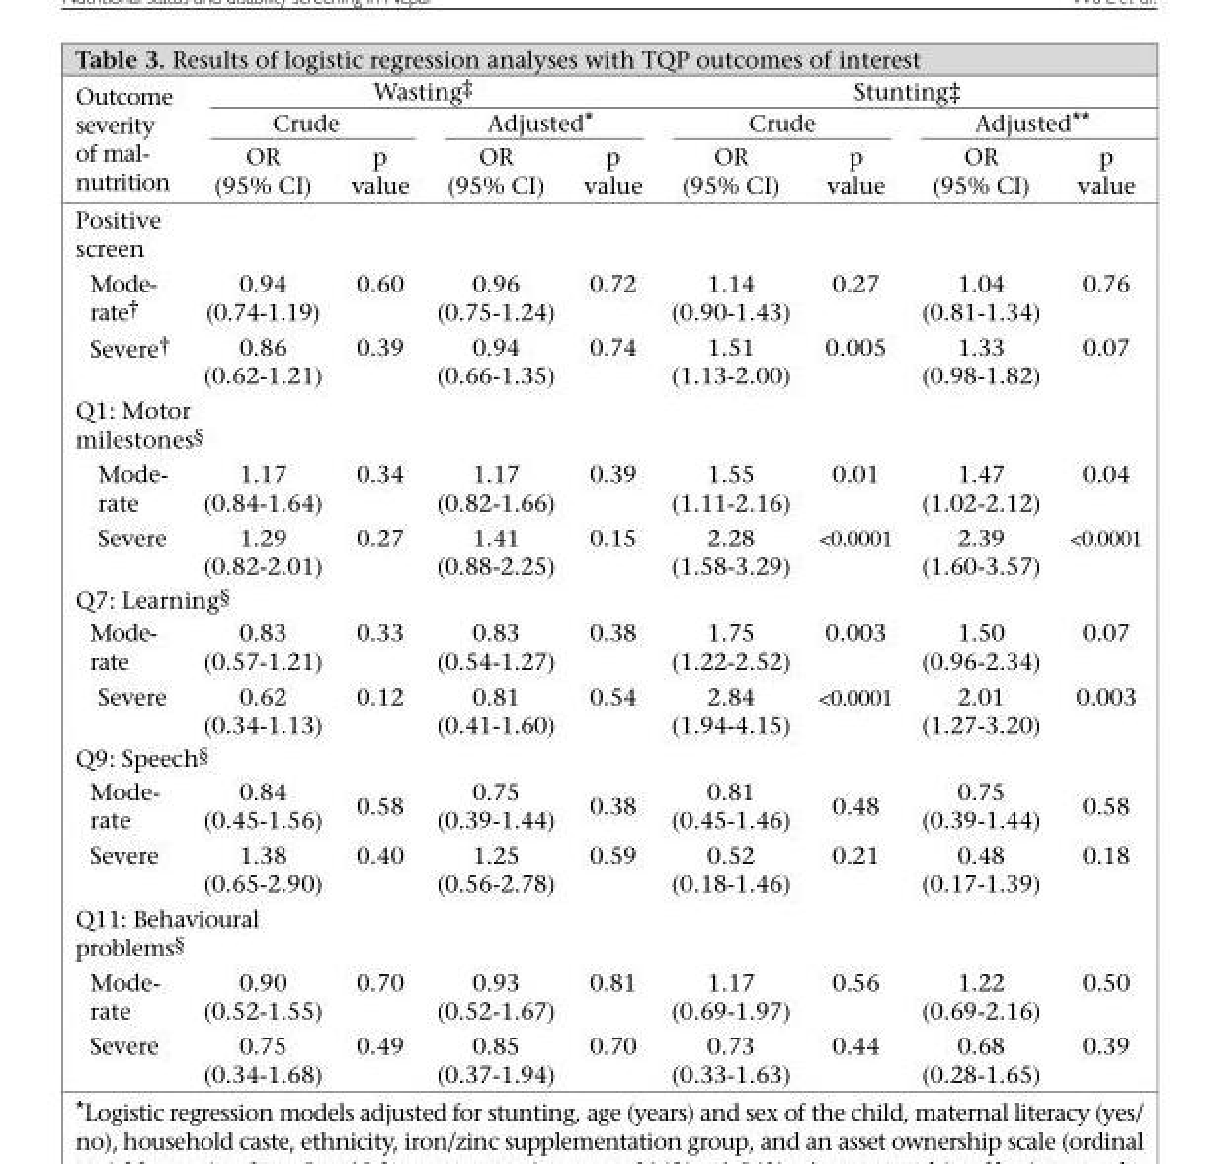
<table><thead><tr><td rowspan="3">Outcome severity of mal- nutrition</td><td colspan="4">Wasting‡</td><td colspan="4">Stunting‡</td></tr><tr><td colspan="2">Crude</td><td colspan="2">Adjusted*</td><td colspan="2">Crude</td><td colspan="2">Adjusted**</td></tr><tr><td>OR (95% CI)</td><td>p value</td><td>OR (95% CI)</td><td>p value</td><td>OR (95% CI)</td><td>p value</td><td>OR (95% CI)</td><td>p value</td></tr></thead><tbody><tr><td colspan="9">Positive screen</td></tr><tr><td>Mode- rate†</td><td>0.94 (0.74-1.19)</td><td>0.60</td><td>0.96 (0.75-1.24)</td><td>0.72</td><td>1.14 (0.90-1.43)</td><td>0.27</td><td>1.04 (0.81-1.34)</td><td>0.76</td></tr><tr><td>Severe†</td><td>0.86 (0.62-1.21)</td><td>0.39</td><td>0.94 (0.66-1.35)</td><td>0.74</td><td>1.51 (1.13-2.00)</td><td>0.005</td><td>1.33 (0.98-1.82)</td><td>0.07</td></tr><tr><td colspan="9">Q1: Motor milestones§</td></tr><tr><td>Mode- rate</td><td>1.17 (0.84-1.64)</td><td>0.34</td><td>1.17 (0.82-1.66)</td><td>0.39</td><td>1.55 (1.11-2.16)</td><td>0.01</td><td>1.47 (1.02-2.12)</td><td>0.04</td></tr><tr><td>Severe</td><td>1.29 (0.82-2.01)</td><td>0.27</td><td>1.41 (0.88-2.25)</td><td>0.15</td><td>2.28 (1.58-3.29)</td><td>&lt;0.0001</td><td>2.39 (1.60-3.57)</td><td>&lt;0.0001</td></tr><tr><td colspan="9">Q7: Learning§</td></tr><tr><td>Mode- rate</td><td>0.83 (0.57-1.21)</td><td>0.33</td><td>0.83 (0.54-1.27)</td><td>0.38</td><td>1.75 (1.22-2.52)</td><td>0.003</td><td>1.50 (0.96-2.34)</td><td>0.07</td></tr><tr><td>Severe</td><td>0.62 (0.34-1.13)</td><td>0.12</td><td>0.81 (0.41-1.60)</td><td>0.54</td><td>2.84 (1.94-4.15)</td><td>&lt;0.0001</td><td>2.01 (1.27-3.20)</td><td>0.003</td></tr><tr><td colspan="9">Q9: Speech§</td></tr><tr><td>Mode- rate</td><td>0.84 (0.45-1.56)</td><td>0.58</td><td>0.75 (0.39-1.44)</td><td>0.38</td><td>0.81 (0.45-1.46)</td><td>0.48</td><td>0.75 (0.39-1.44)</td><td>0.58</td></tr><tr><td>Severe</td><td>1.38 (0.65-2.90)</td><td>0.40</td><td>1.25 (0.56-2.78)</td><td>0.59</td><td>0.52 (0.18-1.46)</td><td>0.21</td><td>0.48 (0.17-1.39)</td><td>0.18</td></tr><tr><td colspan="9">Q11: Behavioural problems§</td></tr><tr><td>Mode- rate</td><td>0.90 (0.52-1.55)</td><td>0.70</td><td>0.93 (0.52-1.67)</td><td>0.81</td><td>1.17 (0.69-1.97)</td><td>0.56</td><td>1.22 (0.69-2.16)</td><td>0.50</td></tr><tr><td>Severe</td><td>0.75 (0.34-1.68)</td><td>0.49</td><td>0.85 (0.37-1.94)</td><td>0.70</td><td>0.73 (0.33-1.63)</td><td>0.44</td><td>0.68 (0.28-1.65)</td><td>0.39</td></tr></tbody></table>